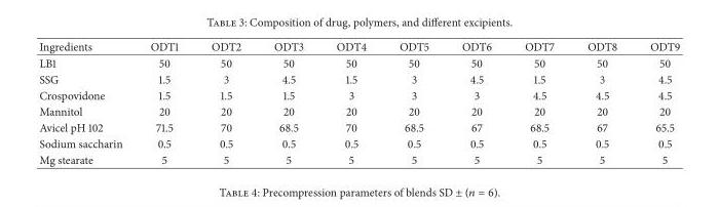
<table><thead><tr><td>Ingredients</td><td>ODT1</td><td>ODT2</td><td>ODT3</td><td>ODT4</td><td>ODT5</td><td>ODT6</td><td>ODT7</td><td>ODT8</td><td>ODT9</td></tr></thead><tbody><tr><td>LB1</td><td>50</td><td>50</td><td>50</td><td>50</td><td>50</td><td>50</td><td>50</td><td>50</td><td>50</td></tr><tr><td>SSG</td><td>1.5</td><td>3</td><td>4.5</td><td>1.5</td><td>3</td><td>4.5</td><td>1.5</td><td>3</td><td>4.5</td></tr><tr><td>Crospovidone</td><td>1.5</td><td>1.5</td><td>1.5</td><td>3</td><td>3</td><td>3</td><td>4.5</td><td>4.5</td><td>4.5</td></tr><tr><td>Mannitol</td><td>20</td><td>20</td><td>20</td><td>20</td><td>20</td><td>20</td><td>20</td><td>20</td><td>20</td></tr><tr><td>Avicel pH 102</td><td>71.5</td><td>70</td><td>68.5</td><td>70</td><td>68.5</td><td>67</td><td>68.5</td><td>67</td><td>65.5</td></tr><tr><td>Sodium saccharin</td><td>0.5</td><td>0.5</td><td>0.5</td><td>0.5</td><td>0.5</td><td>0.5</td><td>0.5</td><td>0.5</td><td>0.5</td></tr><tr><td>Mg stearate</td><td>5</td><td>5</td><td>5</td><td>5</td><td>5</td><td>5</td><td>5</td><td>5</td><td>5</td></tr></tbody></table>